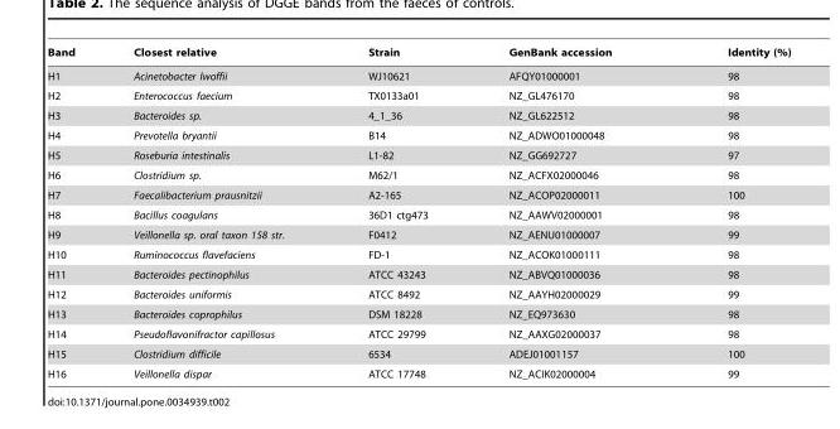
<table><thead><tr><td>Band</td><td>Closest relative</td><td>Strain</td><td>GenBank accession</td><td>Identity (%)</td></tr></thead><tbody><tr><td>H1</td><td>Acinetobacter lwoffii</td><td>WJ10621</td><td>AFQY01000001</td><td>98</td></tr><tr><td>H2</td><td>Enterococcus faecium</td><td>TX0133a01</td><td>NZ_GL476170</td><td>98</td></tr><tr><td>H3</td><td>Bacteroides sp.</td><td>4_1_36</td><td>NZ_GL622512</td><td>98</td></tr><tr><td>H4</td><td>Prevotella bryantii</td><td>B14</td><td>NZ_ADWO01000048</td><td>98</td></tr><tr><td>H5</td><td>Roseburia intestinalis</td><td>L1-82</td><td>NZ_GG692727</td><td>97</td></tr><tr><td>H6</td><td>Clostridium sp.</td><td>M62/1</td><td>NZ_ACFX02000046</td><td>98</td></tr><tr><td>H7</td><td>Faecalibacterium prausnitzii</td><td>A2-165</td><td>NZ_ACOP02000011</td><td>100</td></tr><tr><td>H8</td><td>Bacillus coagulans</td><td>36D1 ctg473</td><td>NZ_AAWV02000001</td><td>98</td></tr><tr><td>H9</td><td>Veillonella sp. oral taxon 158 str.</td><td>F0412</td><td>NZ_AENU01000007</td><td>99</td></tr><tr><td>H10</td><td>Ruminococcus flavefaciens</td><td>FD-1</td><td>NZ_ACOK01000111</td><td>98</td></tr><tr><td>H11</td><td>Bacteroides pectinophilus</td><td>ATCC 43243</td><td>NZ_ABVQ01000036</td><td>98</td></tr><tr><td>H12</td><td>Bacteroides uniformis</td><td>ATCC 8492</td><td>NZ_AAYH02000029</td><td>99</td></tr><tr><td>H13</td><td>Bacteroides coprophilus</td><td>DSM 18228</td><td>NZ_EQ973630</td><td>98</td></tr><tr><td>H14</td><td>Pseudoflavonifractor capillosus</td><td>ATCC 29799</td><td>NZ_AAXG02000037</td><td>98</td></tr><tr><td>H15</td><td>Clostridium difficile</td><td>6534</td><td>ADEJ01001157</td><td>100</td></tr><tr><td>H16</td><td>Veillonella dispar</td><td>ATCC 17748</td><td>NZ_ACIK02000004</td><td>99</td></tr></tbody></table>